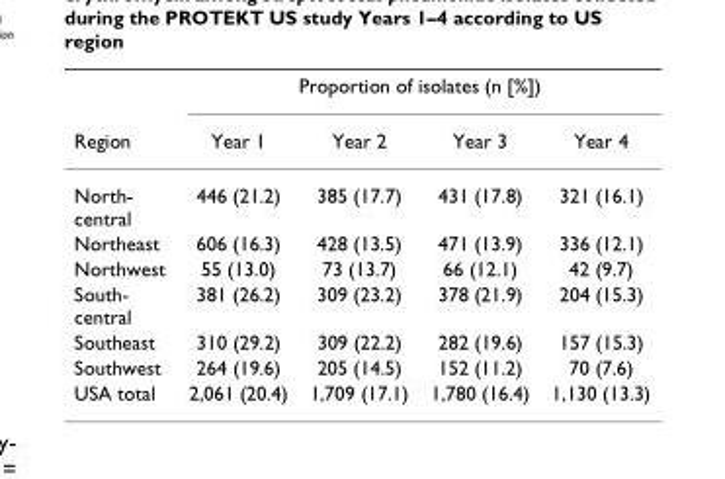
<table><thead><tr><td rowspan="2">Region</td><td colspan="4">Proportion of isolates (n [%])</td></tr><tr><td>Year 1</td><td>Year 2</td><td>Year 3</td><td>Year 4</td></tr></thead><tbody><tr><td>North- central</td><td>446 (21.2)</td><td>385 (17.7)</td><td>431 (17.8)</td><td>321 (16.1)</td></tr><tr><td>Northeast</td><td>606 (16.3)</td><td>428 (13.5)</td><td>471 (13.9)</td><td>336 (12.1)</td></tr><tr><td>Northwest</td><td>55 (13.0)</td><td>73 (13.7)</td><td>66 (12.1)</td><td>42 (9.7)</td></tr><tr><td>South- central</td><td>381 (26.2)</td><td>309 (23.2)</td><td>378 (21.9)</td><td>204 (15.3)</td></tr><tr><td>Southeast</td><td>310 (29.2)</td><td>309 (22.2)</td><td>282 (19.6)</td><td>157 (15.3)</td></tr><tr><td>Southwest</td><td>264 (19.6)</td><td>205 (14.5)</td><td>152 (11.2)</td><td>70 (7.6)</td></tr><tr><td>USA total</td><td>2,061 (20.4)</td><td>1,709 (17.1)</td><td>1,780 (16.4)</td><td>1,130 (13.3)</td></tr></tbody></table>